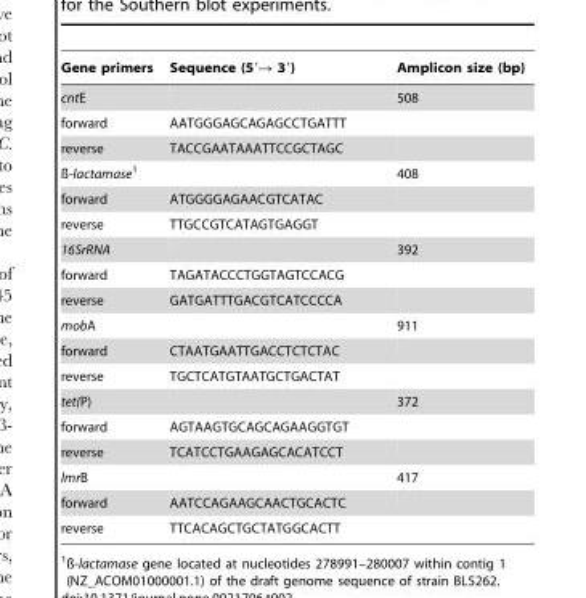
<table><thead><tr><td>Gene primers</td><td>Sequence (5′→ 3′)</td><td>Amplicon size (bp)</td></tr></thead><tbody><tr><td>cntE</td><td></td><td>508</td></tr><tr><td>forward</td><td>AATGGGAGCAGAGCCTGATTT</td><td></td></tr><tr><td>reverse</td><td>TACCGAATAAATTCCGCTAGC</td><td></td></tr><tr><td>ß-lactamase1</td><td></td><td>408</td></tr><tr><td>forward</td><td>ATGGGGAGAACGTCATAC</td><td></td></tr><tr><td>reverse</td><td>TTGCCGTCATAGTGAGGT</td><td></td></tr><tr><td>16SrRNA</td><td></td><td>392</td></tr><tr><td>forward</td><td>TAGATACCCTGGTAGTCCACG</td><td></td></tr><tr><td>reverse</td><td>GATGATTTGACGTCATCCCCA</td><td></td></tr><tr><td>mobA</td><td></td><td>911</td></tr><tr><td>forward</td><td>CTAATGAATTGACCTCTCTAC</td><td></td></tr><tr><td>reverse</td><td>TGCTCATGTAATGCTGACTAT</td><td></td></tr><tr><td>tet(P)</td><td></td><td>372</td></tr><tr><td>forward</td><td>AGTAAGTGCAGCAGAAGGTGT</td><td></td></tr><tr><td>reverse</td><td>TCATCCTGAAGAGCACATCCT</td><td></td></tr><tr><td>lmrB</td><td></td><td>417</td></tr><tr><td>forward</td><td>AATCCAGAAGCAACTGCACTC</td><td></td></tr><tr><td>reverse</td><td>TTCACAGCTGCTATGGCACTT</td><td></td></tr></tbody></table>